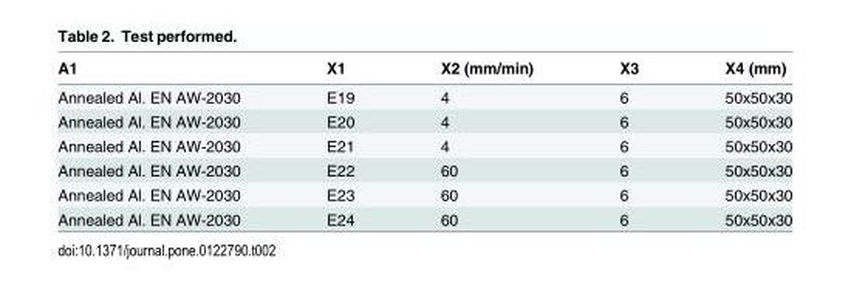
<table><thead><tr><td>A1</td><td>X1</td><td>X2 (mm/min)</td><td>X3</td><td>X4 (mm)</td></tr></thead><tbody><tr><td>Annealed Al. EN AW-2030</td><td>E19</td><td>4</td><td>6</td><td>50x50x30</td></tr><tr><td>Annealed Al. EN AW-2030</td><td>E20</td><td>4</td><td>6</td><td>50x50x30</td></tr><tr><td>Annealed Al. EN AW-2030</td><td>E21</td><td>4</td><td>6</td><td>50x50x30</td></tr><tr><td>Annealed Al. EN AW-2030</td><td>E22</td><td>60</td><td>6</td><td>50x50x30</td></tr><tr><td>Annealed Al. EN AW-2030</td><td>E23</td><td>60</td><td>6</td><td>50x50x30</td></tr><tr><td>Annealed Al. EN AW-2030</td><td>E24</td><td>60</td><td>6</td><td>50x50x30</td></tr></tbody></table>